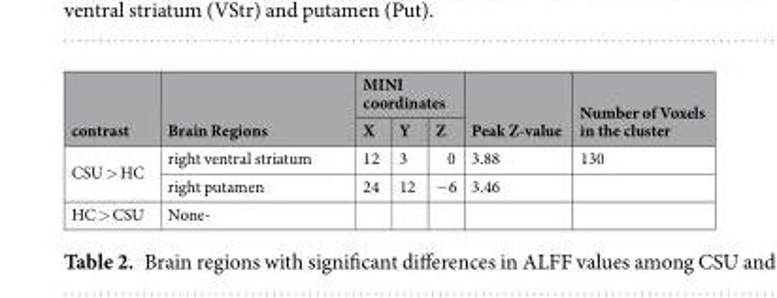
<table><thead><tr><td rowspan="2">contrast</td><td rowspan="2">Brain Regions</td><td colspan="3">MINI coordinates</td><td rowspan="2">Peak Z-value</td><td rowspan="2">Number of Voxels in the cluster</td></tr><tr><td>X</td><td>Y</td><td>Z</td></tr></thead><tbody><tr><td rowspan="2">CSU &gt; HC</td><td>right ventral striatum</td><td>12</td><td>3</td><td>0</td><td>3.88</td><td>130</td></tr><tr><td>right putamen</td><td>24</td><td>12</td><td>−6</td><td>3.46</td><td></td></tr><tr><td>HC &gt; CSU</td><td>None-</td><td></td><td></td><td></td><td></td><td></td></tr></tbody></table>